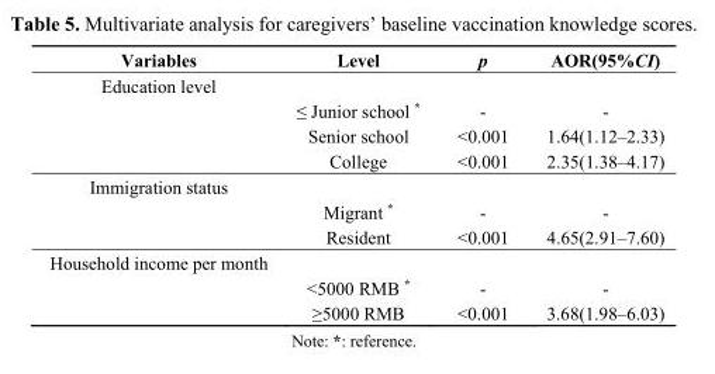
<table><thead><tr><td>Variables</td><td>Level</td><td>p</td><td>AOR(95%CI)</td></tr></thead><tbody><tr><td colspan="4">Education level</td></tr><tr><td></td><td>≤ Junior school *</td><td>-</td><td>-</td></tr><tr><td></td><td>Senior school</td><td>&lt;0.001</td><td>1.64(1.12–2.33)</td></tr><tr><td></td><td>College</td><td>&lt;0.001</td><td>2.35(1.38–4.17)</td></tr><tr><td colspan="4">Immigration status</td></tr><tr><td></td><td>Migrant *</td><td>-</td><td>-</td></tr><tr><td></td><td>Resident</td><td>&lt;0.001</td><td>4.65(2.91–7.60)</td></tr><tr><td colspan="4">Household income per month</td></tr><tr><td></td><td>&lt;5000 RMB *</td><td>-</td><td>-</td></tr><tr><td></td><td>≥5000 RMB</td><td>&lt;0.001</td><td>3.68(1.98–6.03)</td></tr></tbody></table>